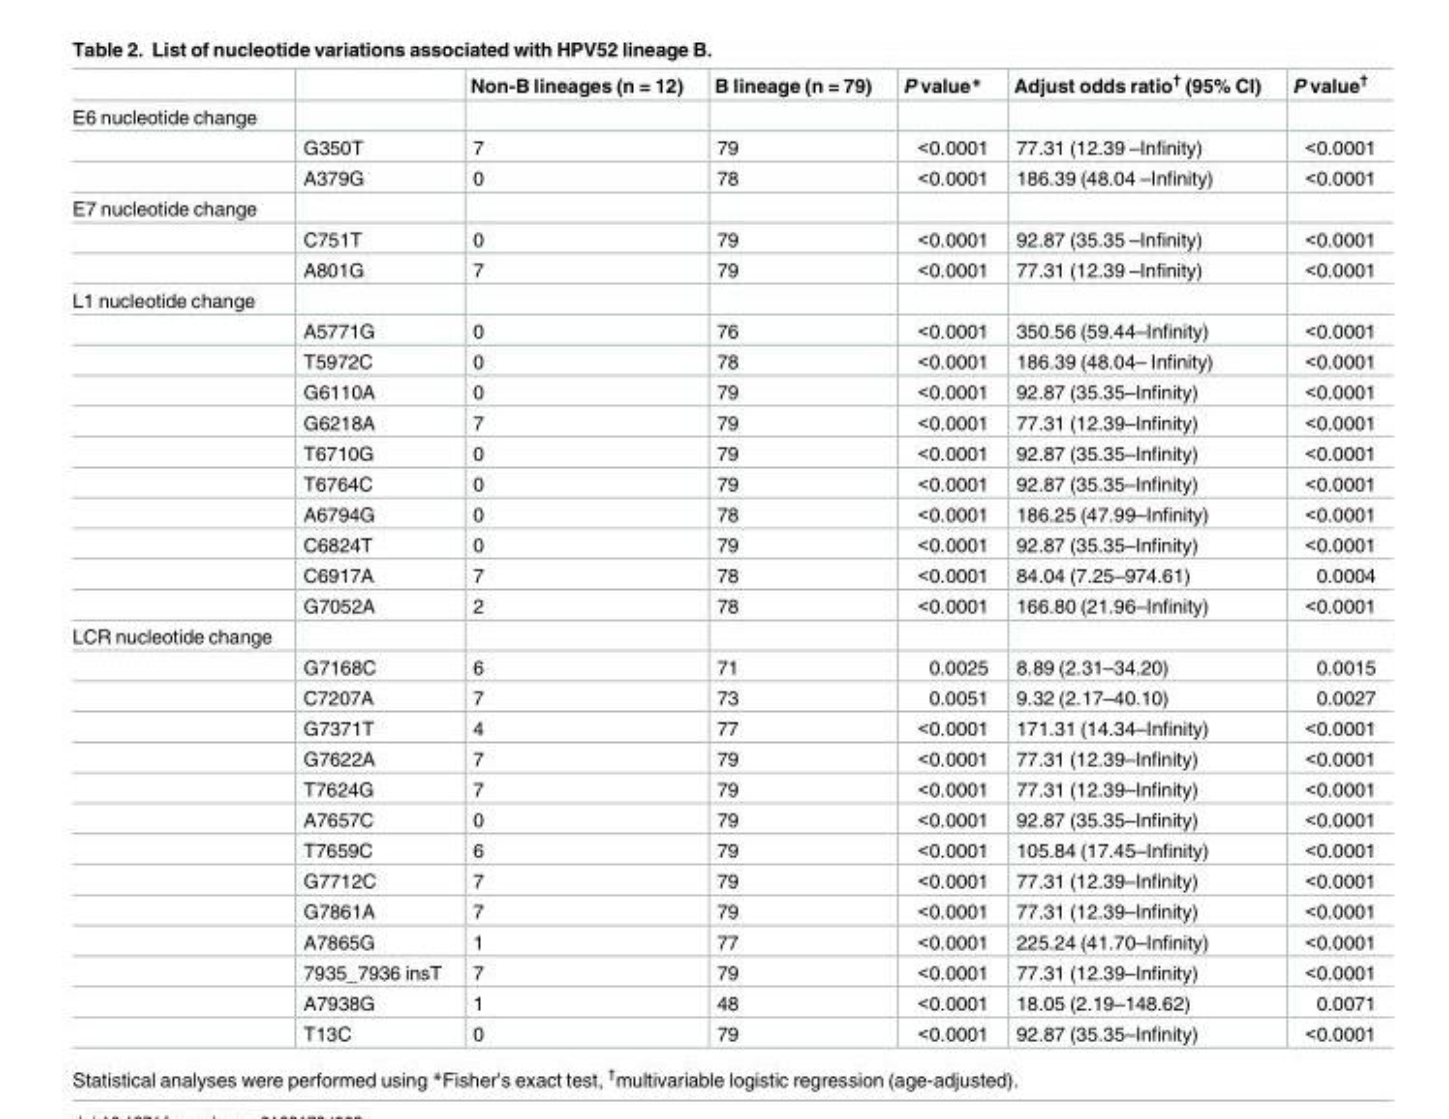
<table><thead><tr><td></td><td></td><td>Non-B lineages (n = 12)</td><td>B lineage (n = 79)</td><td>P value*</td><td>Adjust odds ratio<sup>†</sup> (95% CI)</td><td>P value<sup>†</sup></td></tr></thead><tbody><tr><td colspan="7">E6 nucleotide change</td></tr><tr><td></td><td>G350T</td><td>7</td><td>79</td><td>&lt;0.0001</td><td>77.31 (12.39 –Infinity)</td><td>&lt;0.0001</td></tr><tr><td></td><td>A379G</td><td>0</td><td>78</td><td>&lt;0.0001</td><td>186.39 (48.04 –Infinity)</td><td>&lt;0.0001</td></tr><tr><td colspan="7">E7 nucleotide change</td></tr><tr><td></td><td>C751T</td><td>0</td><td>79</td><td>&lt;0.0001</td><td>92.87 (35.35 –Infinity)</td><td>&lt;0.0001</td></tr><tr><td></td><td>A801G</td><td>7</td><td>79</td><td>&lt;0.0001</td><td>77.31 (12.39 –Infinity)</td><td>&lt;0.0001</td></tr><tr><td colspan="7">L1 nucleotide change</td></tr><tr><td></td><td>A5771G</td><td>0</td><td>76</td><td>&lt;0.0001</td><td>350.56 (59.44–Infinity)</td><td>&lt;0.0001</td></tr><tr><td></td><td>T5972C</td><td>0</td><td>78</td><td>&lt;0.0001</td><td>186.39 (48.04– Infinity)</td><td>&lt;0.0001</td></tr><tr><td></td><td>G6110A</td><td>0</td><td>79</td><td>&lt;0.0001</td><td>92.87 (35.35–Infinity)</td><td>&lt;0.0001</td></tr><tr><td></td><td>G6218A</td><td>7</td><td>79</td><td>&lt;0.0001</td><td>77.31 (12.39–Infinity)</td><td>&lt;0.0001</td></tr><tr><td></td><td>T6710G</td><td>0</td><td>79</td><td>&lt;0.0001</td><td>92.87 (35.35–Infinity)</td><td>&lt;0.0001</td></tr><tr><td></td><td>T6764C</td><td>0</td><td>79</td><td>&lt;0.0001</td><td>92.87 (35.35–Infinity)</td><td>&lt;0.0001</td></tr><tr><td></td><td>A6794G</td><td>0</td><td>78</td><td>&lt;0.0001</td><td>186.25 (47.99–Infinity)</td><td>&lt;0.0001</td></tr><tr><td></td><td>C6824T</td><td>0</td><td>79</td><td>&lt;0.0001</td><td>92.87 (35.35–Infinity)</td><td>&lt;0.0001</td></tr><tr><td></td><td>C6917A</td><td>7</td><td>78</td><td>&lt;0.0001</td><td>84.04 (7.25–974.61)</td><td>0.0004</td></tr><tr><td></td><td>G7052A</td><td>2</td><td>78</td><td>&lt;0.0001</td><td>166.80 (21.96–Infinity)</td><td>&lt;0.0001</td></tr><tr><td colspan="7">LCR nucleotide change</td></tr><tr><td></td><td>G7168C</td><td>6</td><td>71</td><td>0.0025</td><td>8.89 (2.31–34.20)</td><td>0.0015</td></tr><tr><td></td><td>C7207A</td><td>7</td><td>73</td><td>0.0051</td><td>9.32 (2.17–40.10)</td><td>0.0027</td></tr><tr><td></td><td>G7371T</td><td>4</td><td>77</td><td>&lt;0.0001</td><td>171.31 (14.34–Infinity)</td><td>&lt;0.0001</td></tr><tr><td></td><td>G7622A</td><td>7</td><td>79</td><td>&lt;0.0001</td><td>77.31 (12.39–Infinity)</td><td>&lt;0.0001</td></tr><tr><td></td><td>T7624G</td><td>7</td><td>79</td><td>&lt;0.0001</td><td>77.31 (12.39–Infinity)</td><td>&lt;0.0001</td></tr><tr><td></td><td>A7657C</td><td>0</td><td>79</td><td>&lt;0.0001</td><td>92.87 (35.35–Infinity)</td><td>&lt;0.0001</td></tr><tr><td></td><td>T7659C</td><td>6</td><td>79</td><td>&lt;0.0001</td><td>105.84 (17.45–Infinity)</td><td>&lt;0.0001</td></tr><tr><td></td><td>G7712C</td><td>7</td><td>79</td><td>&lt;0.0001</td><td>77.31 (12.39–Infinity)</td><td>&lt;0.0001</td></tr><tr><td></td><td>G7861A</td><td>7</td><td>79</td><td>&lt;0.0001</td><td>77.31 (12.39–Infinity)</td><td>&lt;0.0001</td></tr><tr><td></td><td>A7865G</td><td>1</td><td>77</td><td>&lt;0.0001</td><td>225.24 (41.70–Infinity)</td><td>&lt;0.0001</td></tr><tr><td></td><td>7935_7936 insT</td><td>7</td><td>79</td><td>&lt;0.0001</td><td>77.31 (12.39–Infinity)</td><td>&lt;0.0001</td></tr><tr><td></td><td>A7938G</td><td>1</td><td>48</td><td>&lt;0.0001</td><td>18.05 (2.19–148.62)</td><td>0.0071</td></tr><tr><td></td><td>T13C</td><td>0</td><td>79</td><td>&lt;0.0001</td><td>92.87 (35.35–Infinity)</td><td>&lt;0.0001</td></tr></tbody></table>